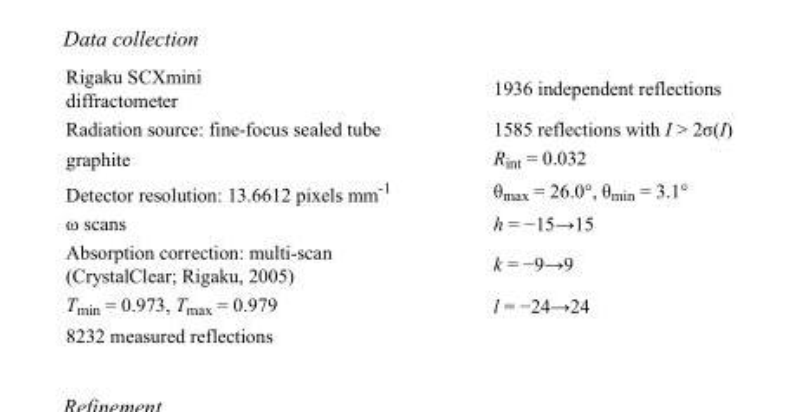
<table><tbody><tr><td>Rigaku SCXmini diffractometer</td><td>1936 independent reflections</td></tr><tr><td>Radiation source: fine-focus sealed tube</td><td>1585 reflections with I &gt; 2σ(I)</td></tr><tr><td>graphite</td><td>R<sub>int</sub> = 0.032</td></tr><tr><td>Detector resolution: 13.6612 pixels mm<sup>-1</sup></td><td>θ<sub>max</sub> = 26.0°, θ<sub>min</sub> = 3.1°</td></tr><tr><td>ω scans</td><td>h = −15→15</td></tr><tr><td>Absorption correction: multi-scan (CrystalClear; Rigaku, 2005)</td><td>k = −9→9</td></tr><tr><td>T<sub>min</sub> = 0.973, T<sub>max</sub> = 0.979</td><td>l = −24→24</td></tr><tr><td>8232 measured reflections</td><td></td></tr></tbody></table>